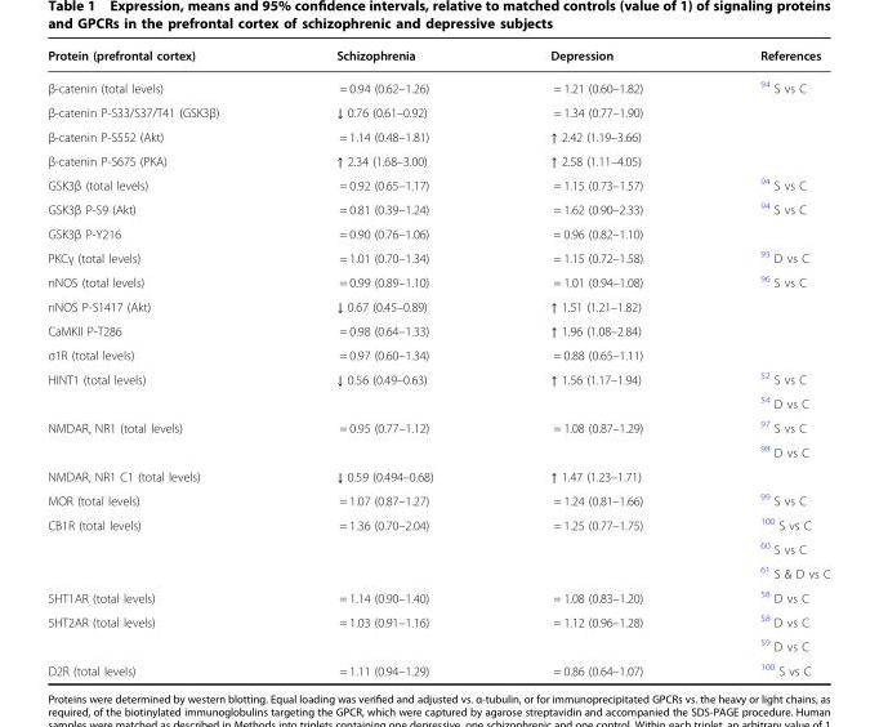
<table><thead><tr><td>Protein (prefrontal cortex)</td><td>Schizophrenia</td><td>Depression</td><td>References</td></tr></thead><tbody><tr><td>β-catenin (total levels)</td><td>= 0.94 (0.62–1.26)</td><td>= 1.21 (0.60–1.82)</td><td><sup>94</sup> S vs C</td></tr><tr><td>β-catenin P-S33/S37/T41 (GSK3β)</td><td>↓ 0.76 (0.61–0.92)</td><td>= 1.34 (0.77–1.90)</td><td></td></tr><tr><td>β-catenin P-S552 (Akt)</td><td>= 1.14 (0.48–1.81)</td><td>↑ 2.42 (1.19–3.66)</td><td></td></tr><tr><td>β-catenin P-S675 (PKA)</td><td>↑ 2.34 (1.68–3.00)</td><td>↑ 2.58 (1.11–4.05)</td><td></td></tr><tr><td>GSK3β (total levels)</td><td>= 0.92 (0.65–1.17)</td><td>= 1.15 (0.73–1.57)</td><td><sup>94</sup> S vs C</td></tr><tr><td>GSK3β P-S9 (Akt)</td><td>= 0.81 (0.39–1.24)</td><td>= 1.62 (0.90–2.33)</td><td><sup>94</sup> S vs C</td></tr><tr><td>GSK3β P-Y216</td><td>= 0.90 (0.76–1.06)</td><td>= 0.96 (0.82–1.10)</td><td></td></tr><tr><td>PKCγ (total levels)</td><td>= 1.01 (0.70–1.34)</td><td>= 1.15 (0.72–1.58)</td><td><sup>95</sup> D vs C</td></tr><tr><td>nNOS (total levels)</td><td>= 0.99 (0.89–1.10)</td><td>= 1.01 (0.94–1.08)</td><td><sup>96</sup> S vs C</td></tr><tr><td>nNOS P-S1417 (Akt)</td><td>↓ 0.67 (0.45–0.89)</td><td>↑ 1.51 (1.21–1.82)</td><td></td></tr><tr><td>CaMKII P-T286</td><td>= 0.98 (0.64–1.33)</td><td>↑ 1.96 (1.08–2.84)</td><td></td></tr><tr><td>σ1R (total levels)</td><td>= 0.97 (0.60–1.34)</td><td>= 0.88 (0.65–1.11)</td><td></td></tr><tr><td rowspan="2">HINT1 (total levels)</td><td>↓ 0.56 (0.49–0.63)</td><td>↑ 1.56 (1.17–1.94)</td><td><sup>52</sup> S vs C</td></tr><tr><td></td><td></td><td><sup>54</sup> D vs C</td></tr><tr><td rowspan="2">NMDAR, NR1 (total levels)</td><td>= 0.95 (0.77–1.12)</td><td>= 1.08 (0.87–1.29)</td><td><sup>97</sup> S vs C</td></tr><tr><td></td><td></td><td><sup>98</sup> D vs C</td></tr><tr><td>NMDAR, NR1 C1 (total levels)</td><td>↓ 0.59 (0.494–0.68)</td><td>↑ 1.47 (1.23–1.71)</td><td></td></tr><tr><td>MOR (total levels)</td><td>= 1.07 (0.87–1.27)</td><td>= 1.24 (0.81–1.66)</td><td><sup>99</sup> S vs C</td></tr><tr><td rowspan="3">CB1R (total levels)</td><td>= 1.36 (0.70–2.04)</td><td>= 1.25 (0.77–1.75)</td><td><sup>100</sup> S vs C</td></tr><tr><td></td><td></td><td><sup>60</sup> S vs C</td></tr><tr><td></td><td></td><td><sup>61</sup> S &amp; D vs C</td></tr><tr><td>5HT1AR (total levels)</td><td>= 1.14 (0.90–1.40)</td><td>= 1.08 (0.83–1.20)</td><td><sup>58</sup> D vs C</td></tr><tr><td rowspan="2">5HT2AR (total levels)</td><td>= 1.03 (0.91–1.16)</td><td>= 1.12 (0.96–1.28)</td><td><sup>58</sup> D vs C</td></tr><tr><td></td><td></td><td><sup>59</sup> D vs C</td></tr><tr><td>D2R (total levels)</td><td>= 1.11 (0.94–1.29)</td><td>= 0.86 (0.64–1.07)</td><td><sup>100</sup> S vs C</td></tr></tbody></table>